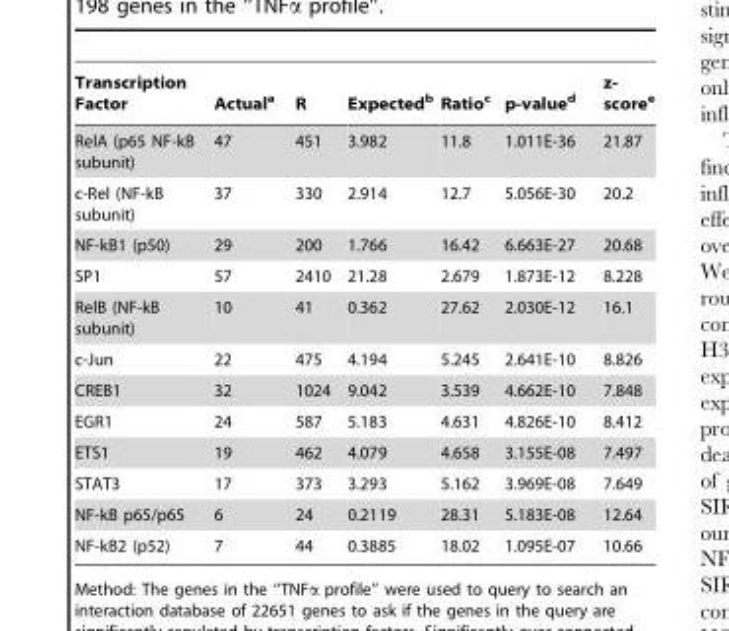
<table><thead><tr><td>Transcription Factor</td><td>Actual<sup>a</sup></td><td>R</td><td>Expected<sup>b</sup></td><td>Ratio<sup>c</sup></td><td>p-value<sup>d</sup></td><td>z- score<sup>e</sup></td></tr></thead><tbody><tr><td>RelA (p65 NF-kB subunit)</td><td>47</td><td>451</td><td>3.982</td><td>11.8</td><td>1.011E-36</td><td>21.87</td></tr><tr><td>c-Rel (NF-kB subunit)</td><td>37</td><td>330</td><td>2.914</td><td>12.7</td><td>5.056E-30</td><td>20.2</td></tr><tr><td>NF-kB1 (p50)</td><td>29</td><td>200</td><td>1.766</td><td>16.42</td><td>6.663E-27</td><td>20.68</td></tr><tr><td>SP1</td><td>57</td><td>2410</td><td>21.28</td><td>2.679</td><td>1.873E-12</td><td>8.228</td></tr><tr><td>RelB (NF-kB subunit)</td><td>10</td><td>41</td><td>0.362</td><td>27.62</td><td>2.030E-12</td><td>16.1</td></tr><tr><td>c-Jun</td><td>22</td><td>475</td><td>4.194</td><td>5.245</td><td>2.641E-10</td><td>8.826</td></tr><tr><td>CREB1</td><td>32</td><td>1024</td><td>9.042</td><td>3.539</td><td>4.662E-10</td><td>7.848</td></tr><tr><td>EGR1</td><td>24</td><td>587</td><td>5.183</td><td>4.631</td><td>4.826E-10</td><td>8.412</td></tr><tr><td>ETS1</td><td>19</td><td>462</td><td>4.079</td><td>4.658</td><td>3.155E-08</td><td>7.497</td></tr><tr><td>STAT3</td><td>17</td><td>373</td><td>3.293</td><td>5.162</td><td>3.969E-08</td><td>7.649</td></tr><tr><td>NF-kB p65/p65</td><td>6</td><td>24</td><td>0.2119</td><td>28.31</td><td>5.183E-08</td><td>12.64</td></tr><tr><td>NF-kB2 (p52)</td><td>7</td><td>44</td><td>0.3885</td><td>18.02</td><td>1.095E-07</td><td>10.66</td></tr></tbody></table>